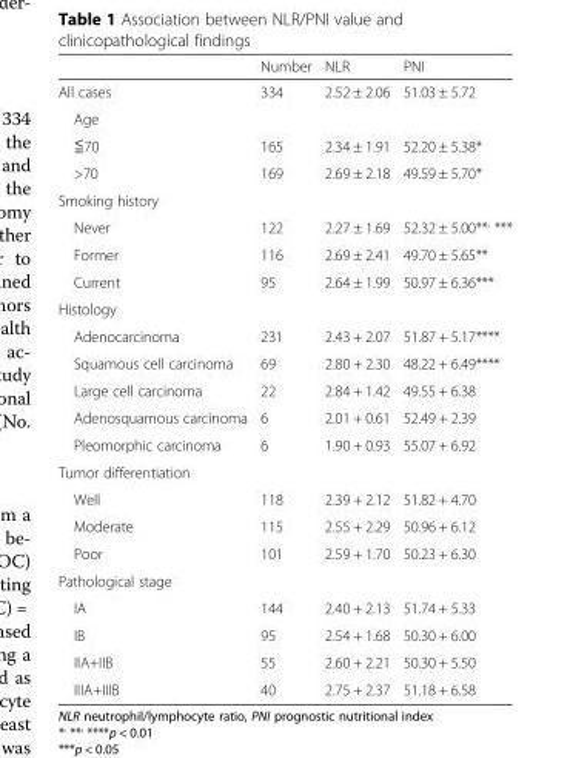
<table><thead><tr><td></td><td>Number</td><td>NLR</td><td>PNI</td></tr></thead><tbody><tr><td>All cases</td><td>334</td><td>2.52 ± 2.06</td><td>51.03 ± 5.72</td></tr><tr><td colspan="4">Age</td></tr><tr><td>≦70</td><td>165</td><td>2.34 ± 1.91</td><td>52.20 ± 5.38*</td></tr><tr><td>&gt;70</td><td>169</td><td>2.69 ± 2.18</td><td>49.59 ± 5.70*</td></tr><tr><td colspan="4">Smoking history</td></tr><tr><td>Never</td><td>122</td><td>2.27 ± 1.69</td><td>52.32 ± 5.00**<sup>,</sup> ***</td></tr><tr><td>Former</td><td>116</td><td>2.69 ± 2.41</td><td>49.70 ± 5.65**</td></tr><tr><td>Current</td><td>95</td><td>2.64 ± 1.99</td><td>50.97 ± 6.36***</td></tr><tr><td colspan="4">Histology</td></tr><tr><td>Adenocarcinoma</td><td>231</td><td>2.43 + 2.07</td><td>51.87 + 5.17****</td></tr><tr><td>Squamous cell carcinoma</td><td>69</td><td>2.80 + 2.30</td><td>48.22 + 6.49****</td></tr><tr><td>Large cell carcinoma</td><td>22</td><td>2.84 + 1.42</td><td>49.55 + 6.38</td></tr><tr><td>Adenosquamous carcinoma</td><td>6</td><td>2.01 + 0.61</td><td>52.49 + 2.39</td></tr><tr><td>Pleomorphic carcinoma</td><td>6</td><td>1.90 + 0.93</td><td>55.07 + 6.92</td></tr><tr><td colspan="4">Tumor differentiation</td></tr><tr><td>Well</td><td>118</td><td>2.39 + 2.12</td><td>51.82 + 4.70</td></tr><tr><td>Moderate</td><td>115</td><td>2.55 + 2.29</td><td>50.96 + 6.12</td></tr><tr><td>Poor</td><td>101</td><td>2.59 + 1.70</td><td>50.23 + 6.30</td></tr><tr><td colspan="4">Pathological stage</td></tr><tr><td>IA</td><td>144</td><td>2.40 + 2.13</td><td>51.74 + 5.33</td></tr><tr><td>IB</td><td>95</td><td>2.54 + 1.68</td><td>50.30 + 6.00</td></tr><tr><td>IIA+IIB</td><td>55</td><td>2.60 + 2.21</td><td>50.30 + 5.50</td></tr><tr><td>IIIA+IIIB</td><td>40</td><td>2.75 + 2.37</td><td>51.18 + 6.58</td></tr></tbody></table>